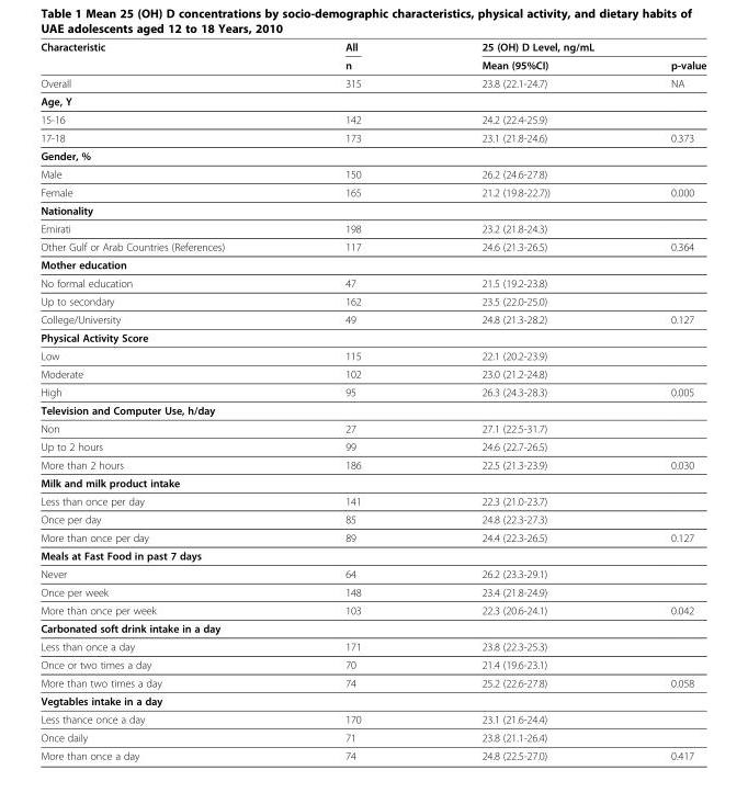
<table><thead><tr><td rowspan="2">Characteristic</td><td rowspan="2">All n</td><td colspan="2">25 (OH) D Level, ng/mL</td></tr><tr><td>Mean (95%CI)</td><td>p-value</td></tr></thead><tbody><tr><td>Overall</td><td>315</td><td>23.8 (22.1-24.7)</td><td>NA</td></tr><tr><td colspan="4">Age, Y</td></tr><tr><td>15-16</td><td>142</td><td>24.2 (22.4-25.9)</td><td></td></tr><tr><td>17-18</td><td>173</td><td>23.1 (21.8-24.6)</td><td>0.373</td></tr><tr><td colspan="4">Gender, %</td></tr><tr><td>Male</td><td>150</td><td>26.2 (24.6-27.8)</td><td></td></tr><tr><td>Female</td><td>165</td><td>21.2 (19.8-22.7))</td><td>0.000</td></tr><tr><td colspan="4">Nationality</td></tr><tr><td>Emirati</td><td>198</td><td>23.2 (21.8-24.3)</td><td></td></tr><tr><td>Other Gulf or Arab Countries (References)</td><td>117</td><td>24.6 (21.3-26.5)</td><td>0.364</td></tr><tr><td colspan="4">Mother education</td></tr><tr><td>No formal education</td><td>47</td><td>21.5 (19.2-23.8)</td><td></td></tr><tr><td>Up to secondary</td><td>162</td><td>23.5 (22.0-25.0)</td><td></td></tr><tr><td>College/University</td><td>49</td><td>24.8 (21.3-28.2)</td><td>0.127</td></tr><tr><td colspan="4">Physical Activity Score</td></tr><tr><td>Low</td><td>115</td><td>22.1 (20.2-23.9)</td><td></td></tr><tr><td>Moderate</td><td>102</td><td>23.0 (21.2-24.8)</td><td></td></tr><tr><td>High</td><td>95</td><td>26.3 (24.3-28.3)</td><td>0.005</td></tr><tr><td colspan="4">Television and Computer Use, h/day</td></tr><tr><td>Non</td><td>27</td><td>27.1 (22.5-31.7)</td><td></td></tr><tr><td>Up to 2 hours</td><td>99</td><td>24.6 (22.7-26.5)</td><td></td></tr><tr><td>More than 2 hours</td><td>186</td><td>22.5 (21.3-23.9)</td><td>0.030</td></tr><tr><td colspan="4">Milk and milk product intake</td></tr><tr><td>Less than once per day</td><td>141</td><td>22.3 (21.0-23.7)</td><td></td></tr><tr><td>Once per day</td><td>85</td><td>24.8 (22.3-27.3)</td><td></td></tr><tr><td>More than once per day</td><td>89</td><td>24.4 (22.3-26.5)</td><td>0.127</td></tr><tr><td colspan="4">Meals at Fast Food in past 7 days</td></tr><tr><td>Never</td><td>64</td><td>26.2 (23.3-29.1)</td><td></td></tr><tr><td>Once per week</td><td>148</td><td>23.4 (21.8-24.9)</td><td></td></tr><tr><td>More than once per week</td><td>103</td><td>22.3 (20.6-24.1)</td><td>0.042</td></tr><tr><td colspan="4">Carbonated soft drink intake in a day</td></tr><tr><td>Less than once a day</td><td>171</td><td>23.8 (22.3-25.3)</td><td></td></tr><tr><td>Once or two times a day</td><td>70</td><td>21.4 (19.6-23.1)</td><td></td></tr><tr><td>More than two times a day</td><td>74</td><td>25.2 (22.6-27.8)</td><td>0.058</td></tr><tr><td colspan="4">Vegtables intake in a day</td></tr><tr><td>Less thance once a day</td><td>170</td><td>23.1 (21.6-24.4)</td><td></td></tr><tr><td>Once daily</td><td>71</td><td>23.8 (21.1-26.4)</td><td></td></tr><tr><td>More than once a day</td><td>74</td><td>24.8 (22.5-27.0)</td><td>0.417</td></tr></tbody></table>